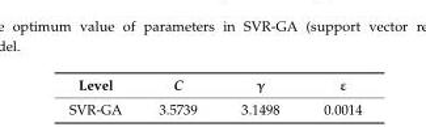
<table><thead><tr><td>Level</td><td>C</td><td>γ</td><td>ε</td></tr></thead><tbody><tr><td>SVR-GA</td><td>3.5739</td><td>3.1498</td><td>0.0014</td></tr></tbody></table>